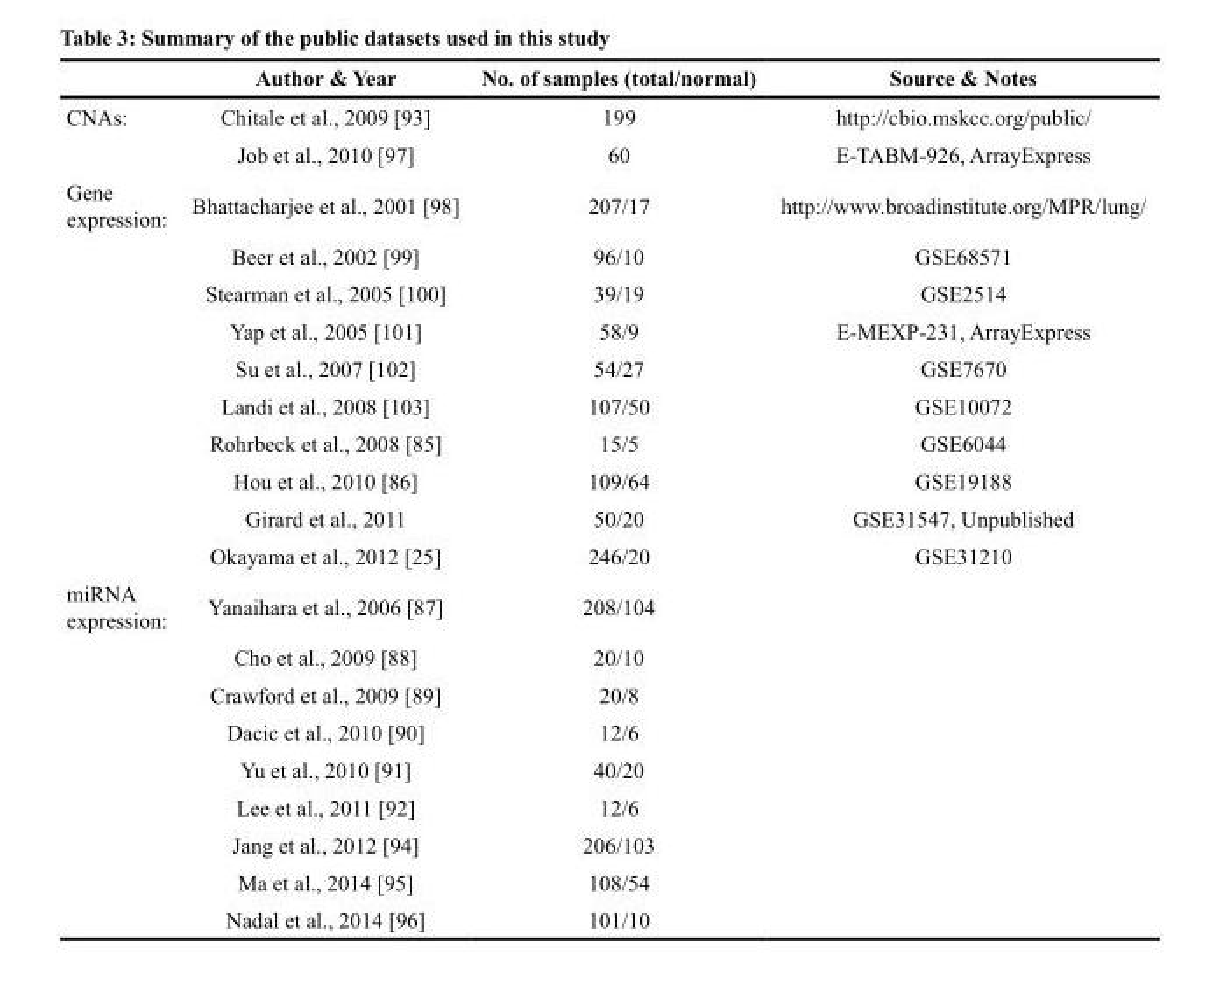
<table><thead><tr><td></td><td>Author &amp; Year</td><td>No. of samples (total/normal)</td><td>Source &amp; Notes</td></tr></thead><tbody><tr><td rowspan="2">CNAs:</td><td>Chitale et al., 2009 [93]</td><td>199</td><td>http://cbio.mskcc.org/public/</td></tr><tr><td>Job et al., 2010 [97]</td><td>60</td><td>E-TABM-926, ArrayExpress</td></tr><tr><td rowspan="10">Gene expression:</td><td>Bhattacharjee et al., 2001 [98]</td><td>207/17</td><td>http://www.broadinstitute.org/MPR/lung/</td></tr><tr><td>Beer et al., 2002 [99]</td><td>96/10</td><td>GSE68571</td></tr><tr><td>Stearman et al., 2005 [100]</td><td>39/19</td><td>GSE2514</td></tr><tr><td>Yap et al., 2005 [101]</td><td>58/9</td><td>E-MEXP-231, ArrayExpress</td></tr><tr><td>Su et al., 2007 [102]</td><td>54/27</td><td>GSE7670</td></tr><tr><td>Landi et al., 2008 [103]</td><td>107/50</td><td>GSE10072</td></tr><tr><td>Rohrbeck et al., 2008 [85]</td><td>15/5</td><td>GSE6044</td></tr><tr><td>Hou et al., 2010 [86]</td><td>109/64</td><td>GSE19188</td></tr><tr><td>Girard et al., 2011</td><td>50/20</td><td>GSE31547, Unpublished</td></tr><tr><td>Okayama et al., 2012 [25]</td><td>246/20</td><td>GSE31210</td></tr><tr><td rowspan="9">miRNA expression:</td><td>Yanaihara et al., 2006 [87]</td><td>208/104</td><td></td></tr><tr><td>Cho et al., 2009 [88]</td><td>20/10</td><td></td></tr><tr><td>Crawford et al., 2009 [89]</td><td>20/8</td><td></td></tr><tr><td>Dacic et al., 2010 [90]</td><td>12/6</td><td></td></tr><tr><td>Yu et al., 2010 [91]</td><td>40/20</td><td></td></tr><tr><td>Lee et al., 2011 [92]</td><td>12/6</td><td></td></tr><tr><td>Jang et al., 2012 [94]</td><td>206/103</td><td></td></tr><tr><td>Ma et al., 2014 [95]</td><td>108/54</td><td></td></tr><tr><td>Nadal et al., 2014 [96]</td><td>101/10</td><td></td></tr></tbody></table>